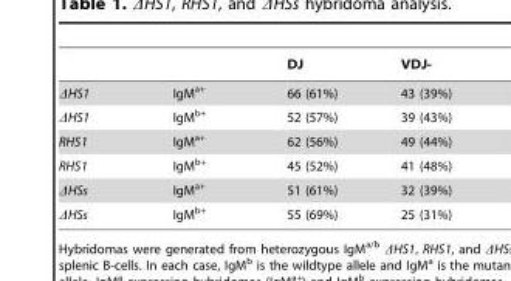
<table><thead><tr><td></td><td></td><td>DJ</td><td>VDJ-</td></tr></thead><tbody><tr><td>ΔHS1</td><td>IgM<sup>a+</sup></td><td>66 (61%)</td><td>43 (39%)</td></tr><tr><td>ΔHS1</td><td>IgM<sup>b+</sup></td><td>52 (57%)</td><td>39 (43%)</td></tr><tr><td>RHS1</td><td>IgM<sup>a+</sup></td><td>62 (56%)</td><td>49 (44%)</td></tr><tr><td>RHS1</td><td>IgM<sup>b+</sup></td><td>45 (52%)</td><td>41 (48%)</td></tr><tr><td>ΔHSs</td><td>IgM<sup>a+</sup></td><td>51 (61%)</td><td>32 (39%)</td></tr><tr><td>ΔHSs</td><td>IgM<sup>b+</sup></td><td>55 (69%)</td><td>25 (31%)</td></tr></tbody></table>